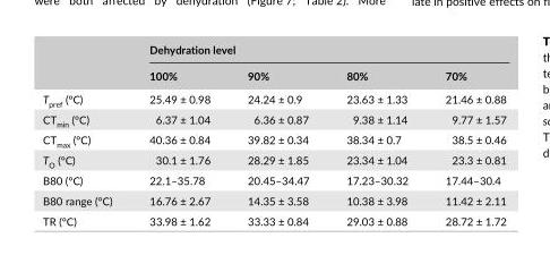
<table><thead><tr><td rowspan="2"></td><td colspan="4">Dehydration level</td></tr><tr><td>100%</td><td>90%</td><td>80%</td><td>70%</td></tr></thead><tbody><tr><td>T<sub>pref</sub> (°C)</td><td>25.49 ± 0.98</td><td>24.24 ± 0.9</td><td>23.63 ± 1.33</td><td>21.46 ± 0.88</td></tr><tr><td>CT<sub>min</sub> (°C)</td><td>6.37 ± 1.04</td><td>6.36 ± 0.87</td><td>9.38 ± 1.14</td><td>9.77 ± 1.57</td></tr><tr><td>CT<sub>max</sub> (°C)</td><td>40.36 ± 0.84</td><td>39.82 ± 0.34</td><td>38.34 ± 0.7</td><td>38.5 ± 0.46</td></tr><tr><td>T<sub>O</sub> (°C)</td><td>30.1 ± 1.76</td><td>28.29 ± 1.85</td><td>23.34 ± 1.04</td><td>23.3 ± 0.81</td></tr><tr><td>B80 (°C)</td><td>22.1–35.78</td><td>20.45–34.47</td><td>17.23–30.32</td><td>17.44–30.4</td></tr><tr><td>B80 range (°C)</td><td>16.76 ± 2.67</td><td>14.35 ± 3.58</td><td>10.38 ± 3.98</td><td>11.42 ± 2.11</td></tr><tr><td>TR (°C)</td><td>33.98 ± 1.62</td><td>33.33 ± 0.84</td><td>29.03 ± 0.88</td><td>28.72 ± 1.72</td></tr></tbody></table>